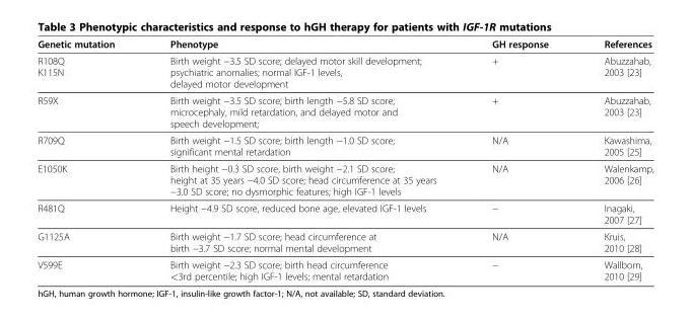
<table><thead><tr><td>Genetic mutation</td><td>Phenotype</td><td>GH response</td><td>References</td></tr></thead><tbody><tr><td>R108Q K115N</td><td>Birth weight −3.5 SD score; delayed motor skill development; psychiatric anomalies; normal IGF-1 levels, delayed motor development</td><td>+</td><td>Abuzzahab, 2003 [23]</td></tr><tr><td>R59X</td><td>Birth weight −3.5 SD score; birth length −5.8 SD score; microcephaly, mild retardation, and delayed motor and speech development;</td><td>+</td><td>Abuzzahab, 2003 [23]</td></tr><tr><td>R709Q</td><td>Birth weight −1.5 SD score; birth length −1.0 SD score; significant mental retardation</td><td>N/A</td><td>Kawashima, 2005 [25]</td></tr><tr><td>E1050K</td><td>Birth height −0.3 SD score, birth weight −2.1 SD score; height at 35 years −4.0 SD score; head circumference at 35 years −3.0 SD score; no dysmorphic features; high IGF-1 levels</td><td>N/A</td><td>Walenkamp, 2006 [26]</td></tr><tr><td>R481Q</td><td>Height −4.9 SD score, reduced bone age, elevated IGF-1 levels</td><td>−</td><td>Inagaki, 2007 [27]</td></tr><tr><td>G1125A</td><td>Birth weight −1.7 SD score; head circumference at birth −3.7 SD score; normal mental development</td><td>N/A</td><td>Kruis, 2010 [28]</td></tr><tr><td>V599E</td><td>Birth weight −2.3 SD score; birth head circumference &lt;3rd percentile; high IGF-1 levels; mental retardation</td><td>−</td><td>Wallborn, 2010 [29]</td></tr></tbody></table>